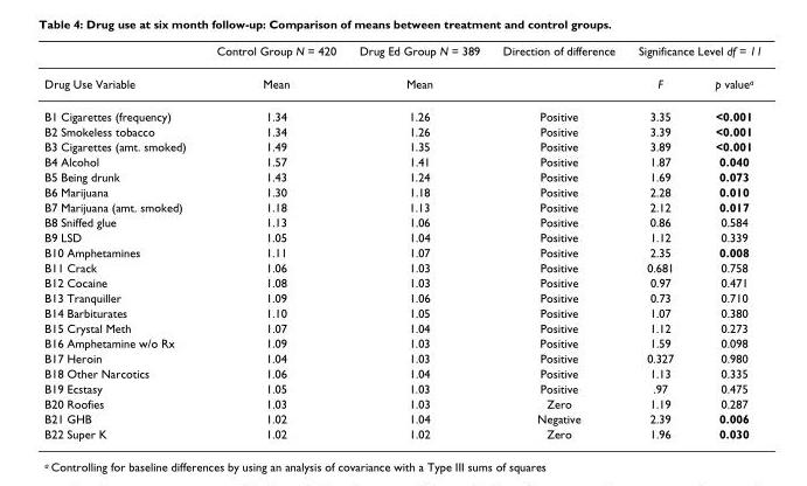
<table><thead><tr><td rowspan="2">Drug Use Variable</td><td rowspan="2">Control Group N = 420 Mean</td><td rowspan="2">Drug Ed Group N = 389 Mean</td><td rowspan="2">Direction of difference</td><td colspan="2">Significance Level df = 11</td></tr><tr><td>F</td><td>p valuea</td></tr></thead><tbody><tr><td>B1 Cigarettes (frequency)</td><td>1.34</td><td>1.26</td><td>Positive</td><td>3.35</td><td>&lt;0.001</td></tr><tr><td>B2 Smokeless tobacco</td><td>1.34</td><td>1.26</td><td>Positive</td><td>3.39</td><td>&lt;0.001</td></tr><tr><td>B3 Cigarettes (amt. smoked)</td><td>1.49</td><td>1.35</td><td>Positive</td><td>3.89</td><td>&lt;0.001</td></tr><tr><td>B4 Alcohol</td><td>1.57</td><td>1.41</td><td>Positive</td><td>1.87</td><td>0.040</td></tr><tr><td>B5 Being drunk</td><td>1.43</td><td>1.24</td><td>Positive</td><td>1.69</td><td>0.073</td></tr><tr><td>B6 Marijuana</td><td>1.30</td><td>1.18</td><td>Positive</td><td>2.28</td><td>0.010</td></tr><tr><td>B7 Marijuana (amt. smoked)</td><td>1.18</td><td>1.13</td><td>Positive</td><td>2.12</td><td>0.017</td></tr><tr><td>B8 Sniffed glue</td><td>1.13</td><td>1.06</td><td>Positive</td><td>0.86</td><td>0.584</td></tr><tr><td>B9 LSD</td><td>1.05</td><td>1.04</td><td>Positive</td><td>1.12</td><td>0.339</td></tr><tr><td>B10 Amphetamines</td><td>1.11</td><td>1.07</td><td>Positive</td><td>2.35</td><td>0.008</td></tr><tr><td>B11 Crack</td><td>1.06</td><td>1.03</td><td>Positive</td><td>0.681</td><td>0.758</td></tr><tr><td>B12 Cocaine</td><td>1.08</td><td>1.03</td><td>Positive</td><td>0.97</td><td>0.471</td></tr><tr><td>B13 Tranquiller</td><td>1.09</td><td>1.06</td><td>Positive</td><td>0.73</td><td>0.710</td></tr><tr><td>B14 Barbiturates</td><td>1.10</td><td>1.05</td><td>Positive</td><td>1.07</td><td>0.380</td></tr><tr><td>B15 Crystal Meth</td><td>1.07</td><td>1.04</td><td>Positive</td><td>1.12</td><td>0.273</td></tr><tr><td>B16 Amphetamine w/o Rx</td><td>1.09</td><td>1.03</td><td>Positive</td><td>1.59</td><td>0.098</td></tr><tr><td>B17 Heroin</td><td>1.04</td><td>1.03</td><td>Positive</td><td>0.327</td><td>0.980</td></tr><tr><td>B18 Other Narcotics</td><td>1.06</td><td>1.04</td><td>Positive</td><td>1.13</td><td>0.335</td></tr><tr><td>B19 Ecstasy</td><td>1.05</td><td>1.03</td><td>Positive</td><td>.97</td><td>0.475</td></tr><tr><td>B20 Roofies</td><td>1.03</td><td>1.03</td><td>Zero</td><td>1.19</td><td>0.287</td></tr><tr><td>B21 GHB</td><td>1.02</td><td>1.04</td><td>Negative</td><td>2.39</td><td>0.006</td></tr><tr><td>B22 Super K</td><td>1.02</td><td>1.02</td><td>Zero</td><td>1.96</td><td>0.030</td></tr></tbody></table>